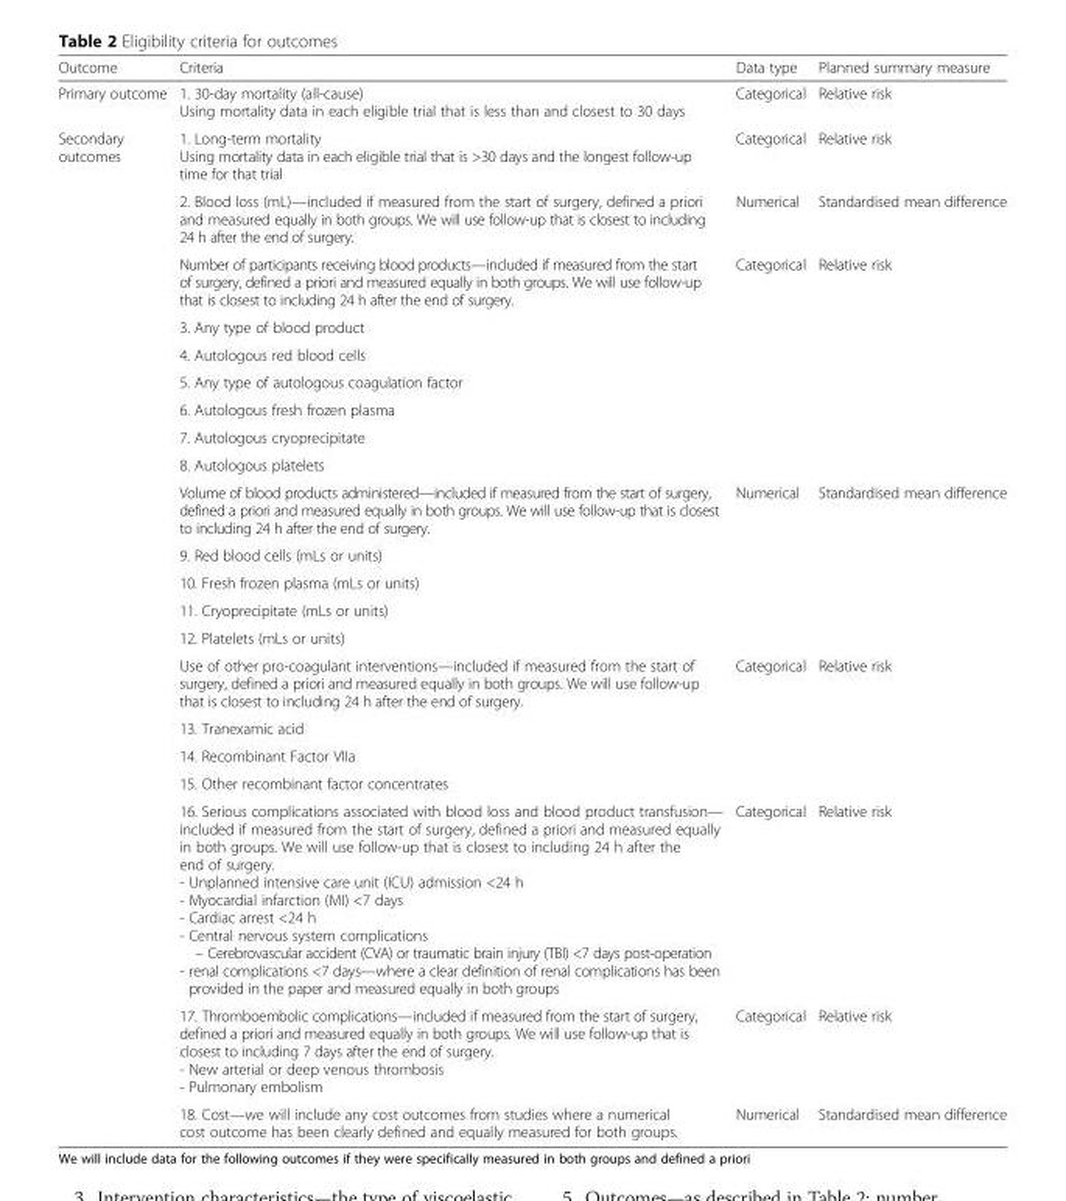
<table><thead><tr><td>Outcome</td><td>Criteria</td><td>Data type</td><td>Planned summary measure</td></tr></thead><tbody><tr><td>Primary outcome</td><td>1. 30-day mortality (all-cause) Using mortality data in each eligible trial that is less than and closest to 30 days</td><td>Categorical</td><td>Relative risk</td></tr><tr><td rowspan="21">Secondary outcomes</td><td>1. Long-term mortality Using mortality data in each eligible trial that is &gt;30 days and the longest follow-up time for that trial</td><td>Categorical</td><td>Relative risk</td></tr><tr><td>2. Blood loss (mL)—included if measured from the start of surgery, defined a priori and measured equally in both groups. We will use follow-up that is closest to including 24 h after the end of surgery.</td><td>Numerical</td><td>Standardised mean difference</td></tr><tr><td>Number of participants receiving blood products—included if measured from the start of surgery, defined a priori and measured equally in both groups. We will use follow-up that is closest to including 24 h after the end of surgery.</td><td>Categorical</td><td>Relative risk</td></tr><tr><td>3. Any type of blood product</td><td></td><td></td></tr><tr><td>4. Autologous red blood cells</td><td></td><td></td></tr><tr><td>5. Any type of autologous coagulation factor</td><td></td><td></td></tr><tr><td>6. Autologous fresh frozen plasma</td><td></td><td></td></tr><tr><td>7. Autologous cryoprecipitate</td><td></td><td></td></tr><tr><td>8. Autologous platelets</td><td></td><td></td></tr><tr><td>Volume of blood products administered—included if measured from the start of surgery, defined a priori and measured equally in both groups. We will use follow-up that is closest to including 24 h after the end of surgery.</td><td>Numerical</td><td>Standardised mean difference</td></tr><tr><td>9. Red blood cells (mLs or units)</td><td></td><td></td></tr><tr><td>10. Fresh frozen plasma (mLs or units)</td><td></td><td></td></tr><tr><td>11. Cryoprecipitate (mLs or units)</td><td></td><td></td></tr><tr><td>12. Platelets (mLs or units)</td><td></td><td></td></tr><tr><td>Use of other pro-coagulant interventions—included if measured from the start of surgery, defined a priori and measured equally in both groups. We will use follow-up that is closest to including 24 h after the end of surgery.</td><td>Categorical</td><td>Relative risk</td></tr><tr><td>13. Tranexamic acid</td><td></td><td></td></tr><tr><td>14. Recombinant Factor VIIa</td><td></td><td></td></tr><tr><td>15. Other recombinant factor concentrates</td><td></td><td></td></tr><tr><td>16. Serious complications associated with blood loss and blood product transfusion— included if measured from the start of surgery, defined a priori and measured equally in both groups. We will use follow-up that is closest to including 24 h after the end of surgery. - Unplanned intensive care unit (ICU) admission &lt;24 h - Myocardial infarction (MI) &lt;7 days - Cardiac arrest &lt;24 h - Central nervous system complications – Cerebrovascular accident (CVA) or traumatic brain injury (TBI) &lt;7 days post-operation - renal complications &lt;7 days—where a clear definition of renal complications has been provided in the paper and measured equally in both groups</td><td>Categorical</td><td>Relative risk</td></tr><tr><td>17. Thromboembolic complications—included if measured from the start of surgery, defined a priori and measured equally in both groups. We will use follow-up that is closest to including 7 days after the end of surgery. - New arterial or deep venous thrombosis - Pulmonary embolism</td><td>Categorical</td><td>Relative risk</td></tr><tr><td>18. Cost—we will include any cost outcomes from studies where a numerical cost outcome has been clearly defined and equally measured for both groups.</td><td>Numerical</td><td>Standardised mean difference</td></tr></tbody></table>